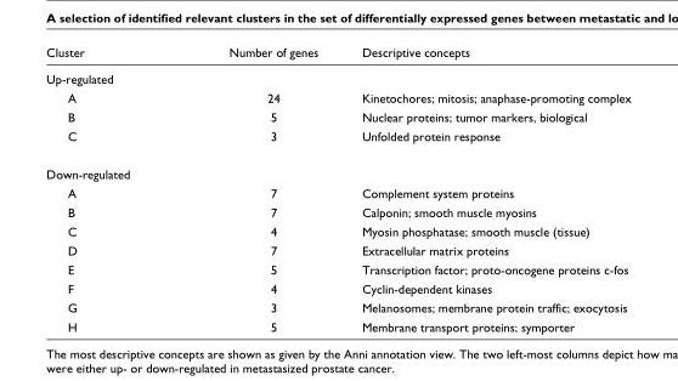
<table><thead><tr><td>Cluster</td><td>Number of genes</td><td>Descriptive concepts</td></tr></thead><tbody><tr><td colspan="3">Up-regulated</td></tr><tr><td>A</td><td>24</td><td>Kinetochores; mitosis; anaphase-promoting complex</td></tr><tr><td>B</td><td>5</td><td>Nuclear proteins; tumor markers, biological</td></tr><tr><td>C</td><td>3</td><td>Unfolded protein response</td></tr><tr><td colspan="3">Down-regulated</td></tr><tr><td>A</td><td>7</td><td>Complement system proteins</td></tr><tr><td>B</td><td>7</td><td>Calponin; smooth muscle myosins</td></tr><tr><td>C</td><td>4</td><td>Myosin phosphatase; smooth muscle (tissue)</td></tr><tr><td>D</td><td>7</td><td>Extracellular matrix proteins</td></tr><tr><td>E</td><td>5</td><td>Transcription factor; proto-oncogene proteins c-fos</td></tr><tr><td>F</td><td>4</td><td>Cyclin-dependent kinases</td></tr><tr><td>G</td><td>3</td><td>Melanosomes; membrane protein traffic; exocytosis</td></tr><tr><td>H</td><td>5</td><td>Membrane transport proteins; symporter</td></tr></tbody></table>